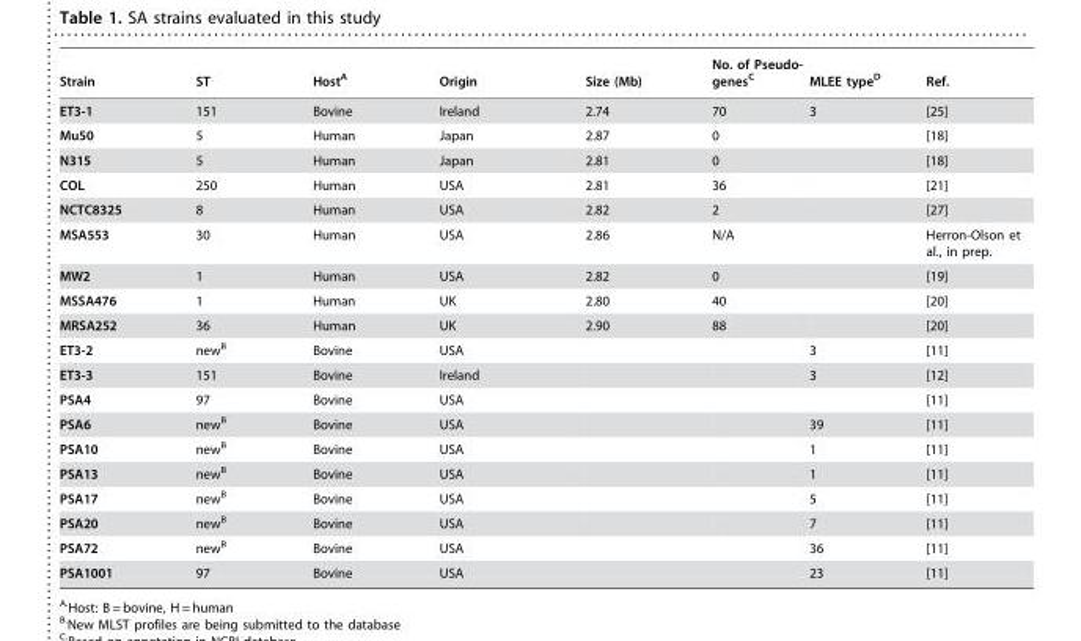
<table><thead><tr><td>Strain</td><td>ST</td><td>Host<sup>A</sup></td><td>Origin</td><td>Size (Mb)</td><td>No. of Pseudo- genes<sup>C</sup></td><td>MLEE type<sup>D</sup></td><td>Ref.</td></tr></thead><tbody><tr><td>ET3-1</td><td>151</td><td>Bovine</td><td>Ireland</td><td>2.74</td><td>70</td><td>3</td><td>[25]</td></tr><tr><td>Mu50</td><td>5</td><td>Human</td><td>Japan</td><td>2.87</td><td>0</td><td></td><td>[18]</td></tr><tr><td>N315</td><td>5</td><td>Human</td><td>Japan</td><td>2.81</td><td>0</td><td></td><td>[18]</td></tr><tr><td>COL</td><td>250</td><td>Human</td><td>USA</td><td>2.81</td><td>36</td><td></td><td>[21]</td></tr><tr><td>NCTC8325</td><td>8</td><td>Human</td><td>USA</td><td>2.82</td><td>2</td><td></td><td>[27]</td></tr><tr><td>MSA553</td><td>30</td><td>Human</td><td>USA</td><td>2.86</td><td>N/A</td><td></td><td>Herron-Olson et al., in prep.</td></tr><tr><td>MW2</td><td>1</td><td>Human</td><td>USA</td><td>2.82</td><td>0</td><td></td><td>[19]</td></tr><tr><td>MSSA476</td><td>1</td><td>Human</td><td>UK</td><td>2.80</td><td>40</td><td></td><td>[20]</td></tr><tr><td>MRSA252</td><td>36</td><td>Human</td><td>UK</td><td>2.90</td><td>88</td><td></td><td>[20]</td></tr><tr><td>ET3-2</td><td>new<sup>B</sup></td><td>Bovine</td><td>USA</td><td></td><td></td><td>3</td><td>[11]</td></tr><tr><td>ET3-3</td><td>151</td><td>Bovine</td><td>Ireland</td><td></td><td></td><td>3</td><td>[12]</td></tr><tr><td>PSA4</td><td>97</td><td>Bovine</td><td>USA</td><td></td><td></td><td></td><td>[11]</td></tr><tr><td>PSA6</td><td>new<sup>B</sup></td><td>Bovine</td><td>USA</td><td></td><td></td><td>39</td><td>[11]</td></tr><tr><td>PSA10</td><td>new<sup>B</sup></td><td>Bovine</td><td>USA</td><td></td><td></td><td>1</td><td>[11]</td></tr><tr><td>PSA13</td><td>new<sup>B</sup></td><td>Bovine</td><td>USA</td><td></td><td></td><td>1</td><td>[11]</td></tr><tr><td>PSA17</td><td>new<sup>B</sup></td><td>Bovine</td><td>USA</td><td></td><td></td><td>5</td><td>[11]</td></tr><tr><td>PSA20</td><td>new<sup>B</sup></td><td>Bovine</td><td>USA</td><td></td><td></td><td>7</td><td>[11]</td></tr><tr><td>PSA72</td><td>new<sup>B</sup></td><td>Bovine</td><td>USA</td><td></td><td></td><td>36</td><td>[11]</td></tr><tr><td>PSA1001</td><td>97</td><td>Bovine</td><td>USA</td><td></td><td></td><td>23</td><td>[11]</td></tr></tbody></table>